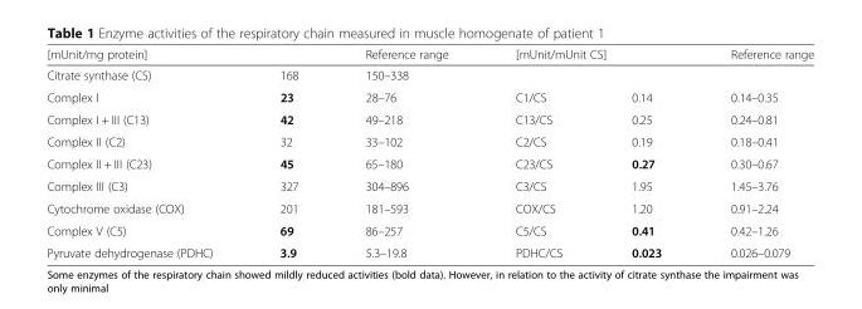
<table><thead><tr><td colspan="2">[mUnit/mg protein]</td><td rowspan="2">Reference range 150–338</td><td colspan="2">[mUnit/mUnit CS]</td><td rowspan="2">Reference range</td></tr><tr><td>Citrate synthase (CS)</td><td>168</td><td></td><td></td></tr></thead><tbody><tr><td>Complex I</td><td>23</td><td>28–76</td><td>C1/CS</td><td>0.14</td><td>0.14–0.35</td></tr><tr><td>Complex I + III (C13)</td><td>42</td><td>49–218</td><td>C13/CS</td><td>0.25</td><td>0.24–0.81</td></tr><tr><td>Complex II (C2)</td><td>32</td><td>33–102</td><td>C2/CS</td><td>0.19</td><td>0.18–0.41</td></tr><tr><td>Complex II + III (C23)</td><td>45</td><td>65–180</td><td>C23/CS</td><td>0.27</td><td>0.30–0.67</td></tr><tr><td>Complex III (C3)</td><td>327</td><td>304–896</td><td>C3/CS</td><td>1.95</td><td>1.45–3.76</td></tr><tr><td>Cytochrome oxidase (COX)</td><td>201</td><td>181–593</td><td>COX/CS</td><td>1.20</td><td>0.91–2.24</td></tr><tr><td>Complex V (C5)</td><td>69</td><td>86–257</td><td>C5/CS</td><td>0.41</td><td>0.42–1.26</td></tr><tr><td>Pyruvate dehydrogenase (PDHC)</td><td>3.9</td><td>5.3–19.8</td><td>PDHC/CS</td><td>0.023</td><td>0.026–0.079</td></tr></tbody></table>